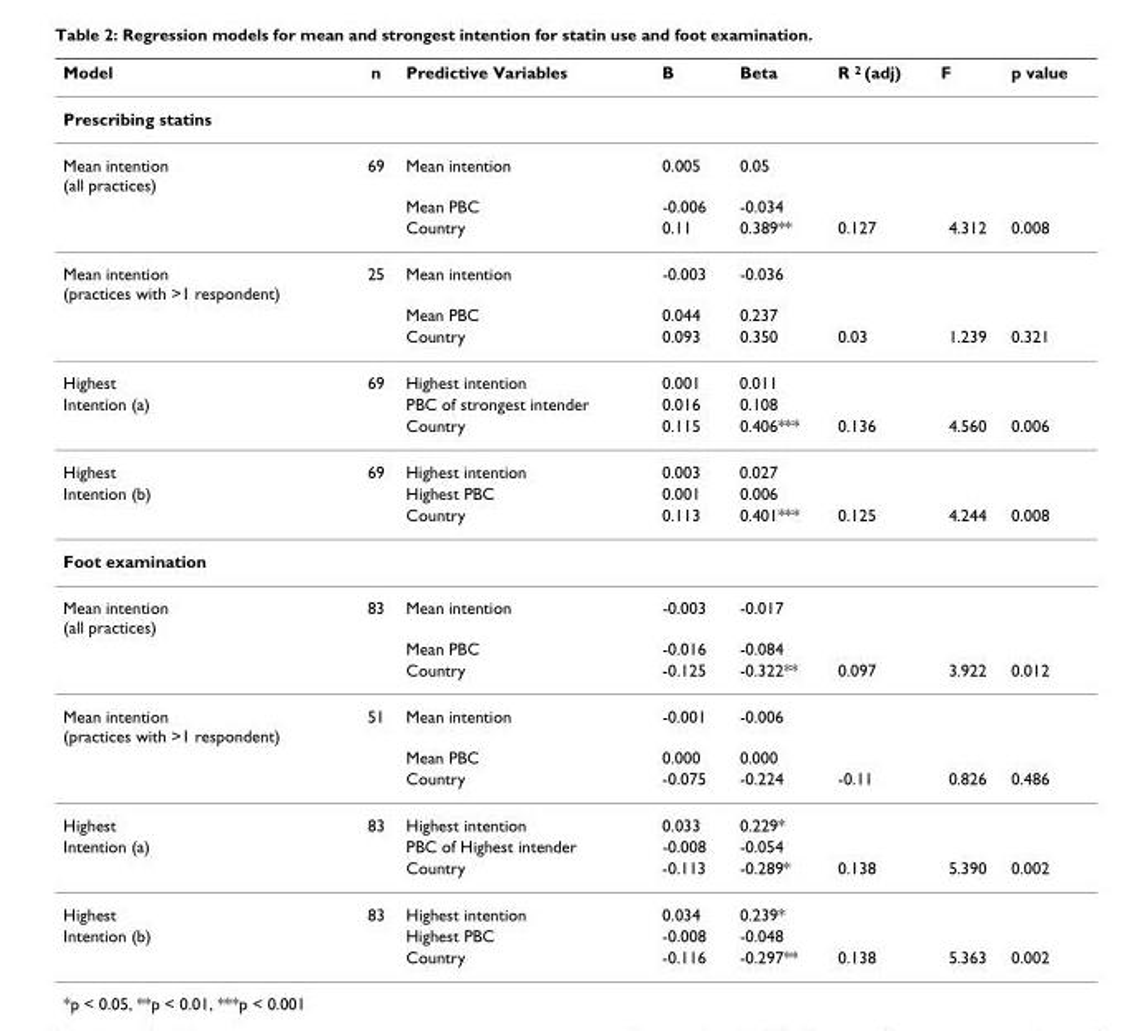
<table><thead><tr><td>Model</td><td>n</td><td>Predictive Variables</td><td>B</td><td>Beta</td><td>R 2 (adj)</td><td>F</td><td>p value</td></tr></thead><tbody><tr><td colspan="8">Prescribing statins</td></tr><tr><td rowspan="3">Mean intention (all practices)</td><td>69</td><td>Mean intention</td><td>0.005</td><td>0.05</td><td></td><td></td><td></td></tr><tr><td></td><td>Mean PBC</td><td>-0.006</td><td>-0.034</td><td></td><td></td><td></td></tr><tr><td></td><td>Country</td><td>0.11</td><td>0.389**</td><td>0.127</td><td>4.312</td><td>0.008</td></tr><tr><td rowspan="3">Mean intention (practices with &gt;1 respondent)</td><td>25</td><td>Mean intention</td><td>-0.003</td><td>-0.036</td><td></td><td></td><td></td></tr><tr><td></td><td>Mean PBC</td><td>0.044</td><td>0.237</td><td></td><td></td><td></td></tr><tr><td></td><td>Country</td><td>0.093</td><td>0.350</td><td>0.03</td><td>1.239</td><td>0.321</td></tr><tr><td>Highest</td><td>69</td><td>Highest intention</td><td>0.001</td><td>0.011</td><td></td><td></td><td></td></tr><tr><td rowspan="2">Intention (a)</td><td></td><td>PBC of strongest intender</td><td>0.016</td><td>0.108</td><td></td><td></td><td></td></tr><tr><td></td><td>Country</td><td>0.115</td><td>0.406***</td><td>0.136</td><td>4.560</td><td>0.006</td></tr><tr><td>Highest</td><td>69</td><td>Highest intention</td><td>0.003</td><td>0.027</td><td></td><td></td><td></td></tr><tr><td rowspan="2">Intention (b)</td><td></td><td>Highest PBC</td><td>0.001</td><td>0.006</td><td></td><td></td><td></td></tr><tr><td></td><td>Country</td><td>0.113</td><td>0.401***</td><td>0.125</td><td>4.244</td><td>0.008</td></tr><tr><td colspan="8">Foot examination</td></tr><tr><td rowspan="3">Mean intention (all practices)</td><td>83</td><td>Mean intention</td><td>-0.003</td><td>-0.017</td><td></td><td></td><td></td></tr><tr><td></td><td>Mean PBC</td><td>-0.016</td><td>-0.084</td><td></td><td></td><td></td></tr><tr><td></td><td>Country</td><td>-0.125</td><td>-0.322**</td><td>0.097</td><td>3.922</td><td>0.012</td></tr><tr><td rowspan="3">Mean intention (practices with &gt;1 respondent)</td><td>51</td><td>Mean intention</td><td>-0.001</td><td>-0.006</td><td></td><td></td><td></td></tr><tr><td></td><td>Mean PBC</td><td>0.000</td><td>0.000</td><td></td><td></td><td></td></tr><tr><td></td><td>Country</td><td>-0.075</td><td>-0.224</td><td>-0.11</td><td>0.826</td><td>0.486</td></tr><tr><td>Highest</td><td>83</td><td>Highest intention</td><td>0.033</td><td>0.229*</td><td></td><td></td><td></td></tr><tr><td rowspan="2">Intention (a)</td><td></td><td>PBC of Highest intender</td><td>-0.008</td><td>-0.054</td><td></td><td></td><td></td></tr><tr><td></td><td>Country</td><td>-0.113</td><td>-0.289*</td><td>0.138</td><td>5.390</td><td>0.002</td></tr><tr><td>Highest</td><td>83</td><td>Highest intention</td><td>0.034</td><td>0.239*</td><td></td><td></td><td></td></tr><tr><td rowspan="2">Intention (b)</td><td></td><td>Highest PBC</td><td>-0.008</td><td>-0.048</td><td></td><td></td><td></td></tr><tr><td></td><td>Country</td><td>-0.116</td><td>-0.297**</td><td>0.138</td><td>5.363</td><td>0.002</td></tr></tbody></table>